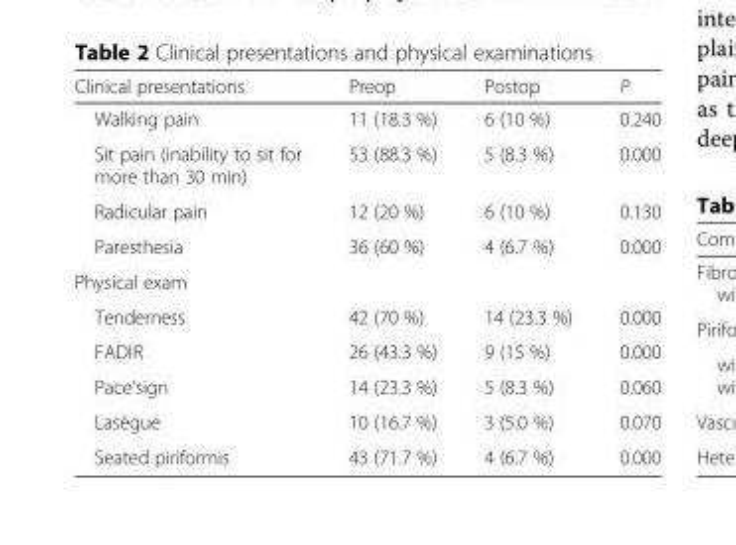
<table><thead><tr><td>Clinical presentations</td><td>Preop</td><td>Postop</td><td>P</td></tr></thead><tbody><tr><td>Walking pain</td><td>11 (18.3 %)</td><td>6 (10 %)</td><td>0.240</td></tr><tr><td>Sit pain (inability to sit for more than 30 min)</td><td>53 (88.3 %)</td><td>5 (8.3 %)</td><td>0.000</td></tr><tr><td>Radicular pain</td><td>12 (20 %)</td><td>6 (10 %)</td><td>0.130</td></tr><tr><td>Paresthesia</td><td>36 (60 %)</td><td>4 (6.7 %)</td><td>0.000</td></tr><tr><td colspan="4">Physical exam</td></tr><tr><td>Tenderness</td><td>42 (70 %)</td><td>14 (23.3 %)</td><td>0.000</td></tr><tr><td>FADIR</td><td>26 (43.3 %)</td><td>9 (15 %)</td><td>0.000</td></tr><tr><td>Pace’sign</td><td>14 (23.3 %)</td><td>5 (8.3 %)</td><td>0.060</td></tr><tr><td>Lasègue</td><td>10 (16.7 %)</td><td>3 (5.0 %)</td><td>0.070</td></tr><tr><td>Seated piriformis</td><td>43 (71.7 %)</td><td>4 (6.7 %)</td><td>0.000</td></tr></tbody></table>